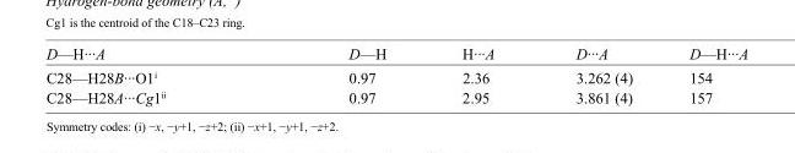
<table><tbody><tr><td>D—H···A</td><td>D—H</td><td>H···A</td><td>D···A</td><td>D—H···A</td></tr><tr><td>C28—H28B···O1<sup>i</sup></td><td>0.97</td><td>2.36</td><td>3.262 (4)</td><td>154</td></tr><tr><td>C28—H28A···Cg1<sup>ii</sup></td><td>0.97</td><td>2.95</td><td>3.861 (4)</td><td>157</td></tr></tbody></table>